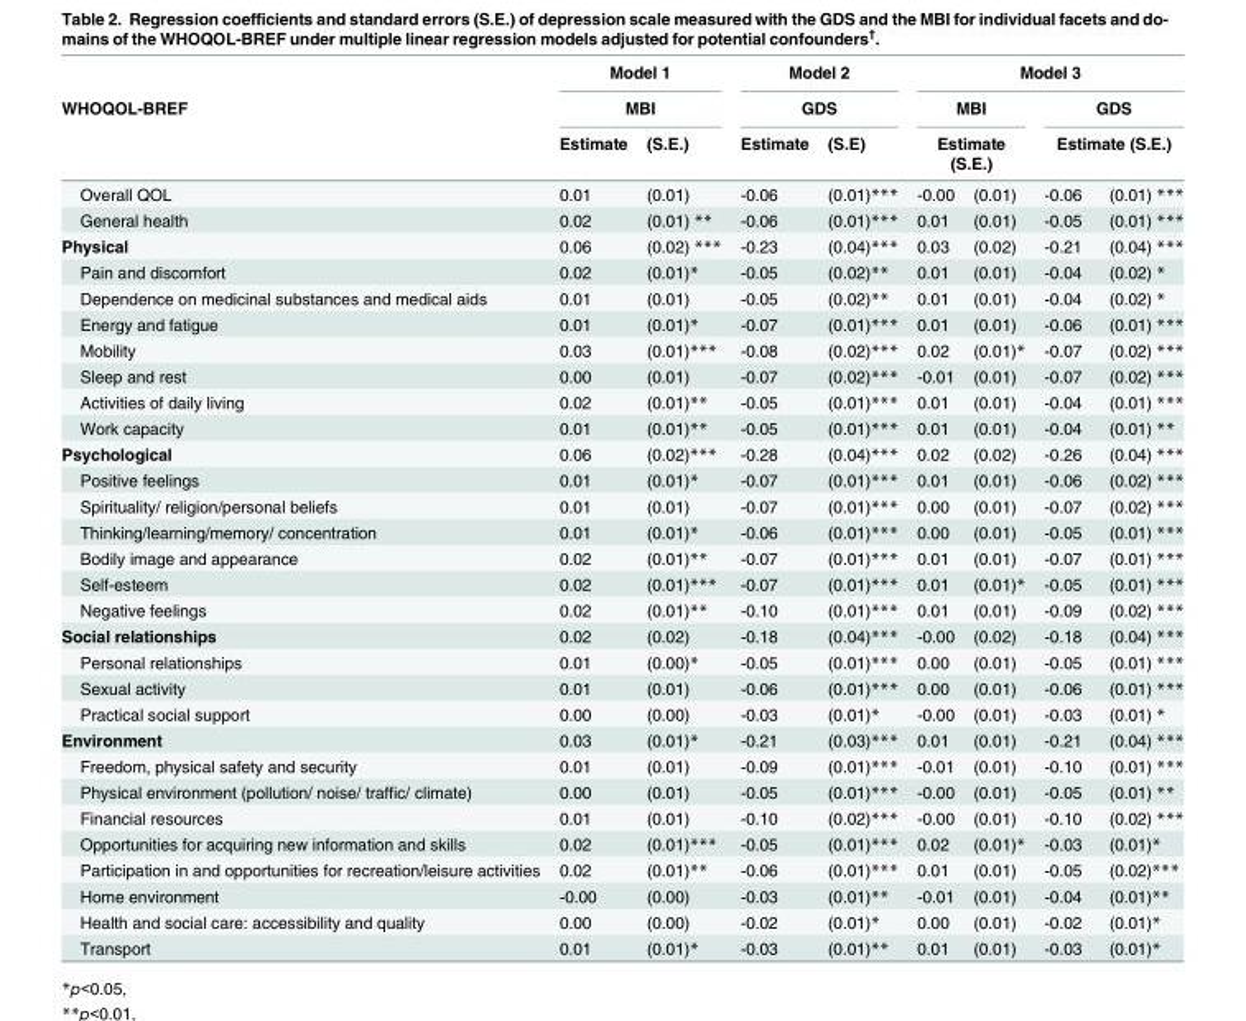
<table><thead><tr><td rowspan="4">WHOQOL-BREF Overall QOL</td><td rowspan="2" colspan="2">Model 1 MBI</td><td rowspan="2" colspan="2">Model 2 GDS</td><td colspan="4">Model 3</td></tr><tr><td rowspan="2" colspan="2">MBI Estimate (S.E.)</td><td rowspan="2" colspan="2">GDS Estimate (S.E.)</td></tr><tr><td rowspan="2">Estimate 0.01</td><td rowspan="2">(S.E.) (0.01)</td><td rowspan="2">Estimate -0.06</td><td rowspan="2">(S.E) (0.01)***</td></tr><tr><td>-0.00</td><td>(0.01)</td><td>-0.06</td><td>(0.01) ***</td></tr></thead><tbody><tr><td>General health</td><td>0.02</td><td>(0.01) **</td><td>-0.06</td><td>(0.01)***</td><td>0.01</td><td>(0.01)</td><td>-0.05</td><td>(0.01) ***</td></tr><tr><td>Physical</td><td>0.06</td><td>(0.02) ***</td><td>-0.23</td><td>(0.04)***</td><td>0.03</td><td>(0.02)</td><td>-0.21</td><td>(0.04) ***</td></tr><tr><td>Pain and discomfort</td><td>0.02</td><td>(0.01)*</td><td>-0.05</td><td>(0.02)**</td><td>0.01</td><td>(0.01)</td><td>-0.04</td><td>(0.02) *</td></tr><tr><td>Dependence on medicinal substances and medical aids</td><td>0.01</td><td>(0.01)</td><td>-0.05</td><td>(0.02)**</td><td>0.01</td><td>(0.01)</td><td>-0.04</td><td>(0.02) *</td></tr><tr><td>Energy and fatigue</td><td>0.01</td><td>(0.01)*</td><td>-0.07</td><td>(0.01)***</td><td>0.01</td><td>(0.01)</td><td>-0.06</td><td>(0.01) ***</td></tr><tr><td>Mobility</td><td>0.03</td><td>(0.01)***</td><td>-0.08</td><td>(0.02)***</td><td>0.02</td><td>(0.01)*</td><td>-0.07</td><td>(0.02) ***</td></tr><tr><td>Sleep and rest</td><td>0.00</td><td>(0.01)</td><td>-0.07</td><td>(0.02)***</td><td>-0.01</td><td>(0.01)</td><td>-0.07</td><td>(0.02) ***</td></tr><tr><td>Activities of daily living</td><td>0.02</td><td>(0.01)**</td><td>-0.05</td><td>(0.01)***</td><td>0.01</td><td>(0.01)</td><td>-0.04</td><td>(0.01) ***</td></tr><tr><td>Work capacity</td><td>0.01</td><td>(0.01)**</td><td>-0.05</td><td>(0.01)***</td><td>0.01</td><td>(0.01)</td><td>-0.04</td><td>(0.01) **</td></tr><tr><td>Psychological</td><td>0.06</td><td>(0.02)***</td><td>-0.28</td><td>(0.04)***</td><td>0.02</td><td>(0.02)</td><td>-0.26</td><td>(0.04) ***</td></tr><tr><td>Positive feelings</td><td>0.01</td><td>(0.01)*</td><td>-0.07</td><td>(0.01)***</td><td>0.01</td><td>(0.01)</td><td>-0.06</td><td>(0.02) ***</td></tr><tr><td>Spirituality/ religion/personal beliefs</td><td>0.01</td><td>(0.01)</td><td>-0.07</td><td>(0.01)***</td><td>0.00</td><td>(0.01)</td><td>-0.07</td><td>(0.02) ***</td></tr><tr><td>Thinking/learning/memory/ concentration</td><td>0.01</td><td>(0.01)*</td><td>-0.06</td><td>(0.01)***</td><td>0.00</td><td>(0.01)</td><td>-0.05</td><td>(0.01) ***</td></tr><tr><td>Bodily image and appearance</td><td>0.02</td><td>(0.01)**</td><td>-0.07</td><td>(0.01)***</td><td>0.01</td><td>(0.01)</td><td>-0.07</td><td>(0.01) ***</td></tr><tr><td>Self-esteem</td><td>0.02</td><td>(0.01)***</td><td>-0.07</td><td>(0.01)***</td><td>0.01</td><td>(0.01)*</td><td>-0.05</td><td>(0.01) ***</td></tr><tr><td>Negative feelings</td><td>0.02</td><td>(0.01)**</td><td>-0.10</td><td>(0.01)***</td><td>0.01</td><td>(0.01)</td><td>-0.09</td><td>(0.02) ***</td></tr><tr><td>Social relationships</td><td>0.02</td><td>(0.02)</td><td>-0.18</td><td>(0.04)***</td><td>-0.00</td><td>(0.02)</td><td>-0.18</td><td>(0.04) ***</td></tr><tr><td>Personal relationships</td><td>0.01</td><td>(0.00)*</td><td>-0.05</td><td>(0.01)***</td><td>0.00</td><td>(0.01)</td><td>-0.05</td><td>(0.01) ***</td></tr><tr><td>Sexual activity</td><td>0.01</td><td>(0.01)</td><td>-0.06</td><td>(0.01)***</td><td>0.00</td><td>(0.01)</td><td>-0.06</td><td>(0.01) ***</td></tr><tr><td>Practical social support</td><td>0.00</td><td>(0.00)</td><td>-0.03</td><td>(0.01)*</td><td>-0.00</td><td>(0.01)</td><td>-0.03</td><td>(0.01) *</td></tr><tr><td>Environment</td><td>0.03</td><td>(0.01)*</td><td>-0.21</td><td>(0.03)***</td><td>0.01</td><td>(0.01)</td><td>-0.21</td><td>(0.04) ***</td></tr><tr><td>Freedom, physical safety and security</td><td>0.01</td><td>(0.01)</td><td>-0.09</td><td>(0.01)***</td><td>-0.01</td><td>(0.01)</td><td>-0.10</td><td>(0.01) ***</td></tr><tr><td>Physical environment (pollution/ noise/ traffic/ climate)</td><td>0.00</td><td>(0.01)</td><td>-0.05</td><td>(0.01)***</td><td>-0.00</td><td>(0.01)</td><td>-0.05</td><td>(0.01) **</td></tr><tr><td>Financial resources</td><td>0.01</td><td>(0.01)</td><td>-0.10</td><td>(0.02)***</td><td>-0.00</td><td>(0.01)</td><td>-0.10</td><td>(0.02) ***</td></tr><tr><td>Opportunities for acquiring new information and skills</td><td>0.02</td><td>(0.01)***</td><td>-0.05</td><td>(0.01)***</td><td>0.02</td><td>(0.01)*</td><td>-0.03</td><td>(0.01)*</td></tr><tr><td>Participation in and opportunities for recreation/leisure activities</td><td>0.02</td><td>(0.01)**</td><td>-0.06</td><td>(0.01)***</td><td>0.01</td><td>(0.01)</td><td>-0.05</td><td>(0.02)***</td></tr><tr><td>Home environment</td><td>-0.00</td><td>(0.00)</td><td>-0.03</td><td>(0.01)**</td><td>-0.01</td><td>(0.01)</td><td>-0.04</td><td>(0.01)**</td></tr><tr><td>Health and social care: accessibility and quality</td><td>0.00</td><td>(0.00)</td><td>-0.02</td><td>(0.01)*</td><td>0.00</td><td>(0.01)</td><td>-0.02</td><td>(0.01)*</td></tr><tr><td>Transport</td><td>0.01</td><td>(0.01)*</td><td>-0.03</td><td>(0.01)**</td><td>0.01</td><td>(0.01)</td><td>-0.03</td><td>(0.01)*</td></tr></tbody></table>